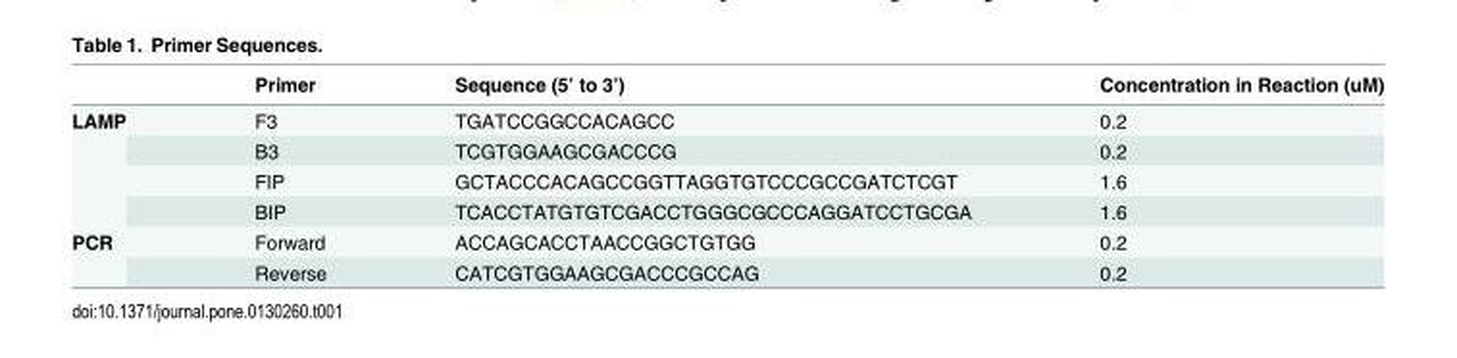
<table><thead><tr><td></td><td>Primer</td><td>Sequence (5’ to 3’)</td><td>Concentration in Reaction (uM)</td></tr></thead><tbody><tr><td rowspan="4">LAMP</td><td>F3</td><td>TGATCCGGCCACAGCC</td><td>0.2</td></tr><tr><td>B3</td><td>TCGTGGAAGCGACCCG</td><td>0.2</td></tr><tr><td>FIP</td><td>GCTACCCACAGCCGGTTAGGTGTCCCGCCGATCTCGT</td><td>1.6</td></tr><tr><td>BIP</td><td>TCACCTATGTGTCGACCTGGGCGCCCAGGATCCTGCGA</td><td>1.6</td></tr><tr><td rowspan="2">PCR</td><td>Forward</td><td>ACCAGCACCTAACCGGCTGTGG</td><td>0.2</td></tr><tr><td>Reverse</td><td>CATCGTGGAAGCGACCCGCCAG</td><td>0.2</td></tr></tbody></table>